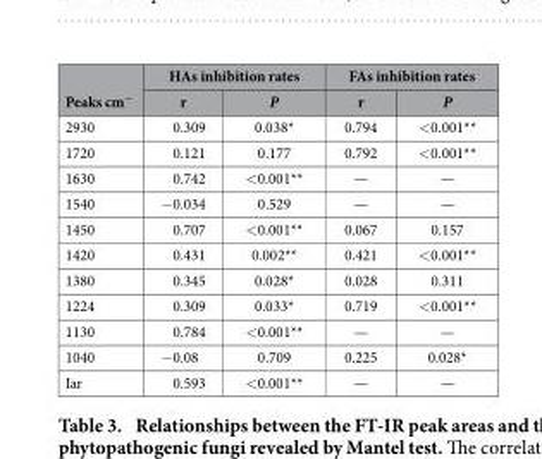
<table><thead><tr><td rowspan="2">Peaks cm<sup>−</sup></td><td colspan="2">HAs inhibition rates</td><td colspan="2">FAs inhibition rates</td></tr><tr><td>r</td><td>P</td><td>r</td><td>P</td></tr></thead><tbody><tr><td>2930</td><td>0.309</td><td>0.038*</td><td>0.794</td><td>&lt; 0.001**</td></tr><tr><td>1720</td><td>0.121</td><td>0.177</td><td>0.792</td><td>&lt; 0.001**</td></tr><tr><td>1630</td><td>0.742</td><td>&lt; 0.001**</td><td>—</td><td>—</td></tr><tr><td>1540</td><td>− 0.034</td><td>0.529</td><td>—</td><td>—</td></tr><tr><td>1450</td><td>0.707</td><td>&lt; 0.001**</td><td>0.067</td><td>0.157</td></tr><tr><td>1420</td><td>0.431</td><td>0.002**</td><td>0.421</td><td>&lt; 0.001**</td></tr><tr><td>1380</td><td>0.345</td><td>0.028*</td><td>0.028</td><td>0.311</td></tr><tr><td>1224</td><td>0.309</td><td>0.033*</td><td>0.719</td><td>&lt; 0.001**</td></tr><tr><td>1130</td><td>0.784</td><td>&lt; 0.001**</td><td>—</td><td>—</td></tr><tr><td>1040</td><td>− 0.08</td><td>0.709</td><td>0.225</td><td>0.028*</td></tr><tr><td>Iar</td><td>0.593</td><td>&lt; 0.001**</td><td>—</td><td>—</td></tr></tbody></table>